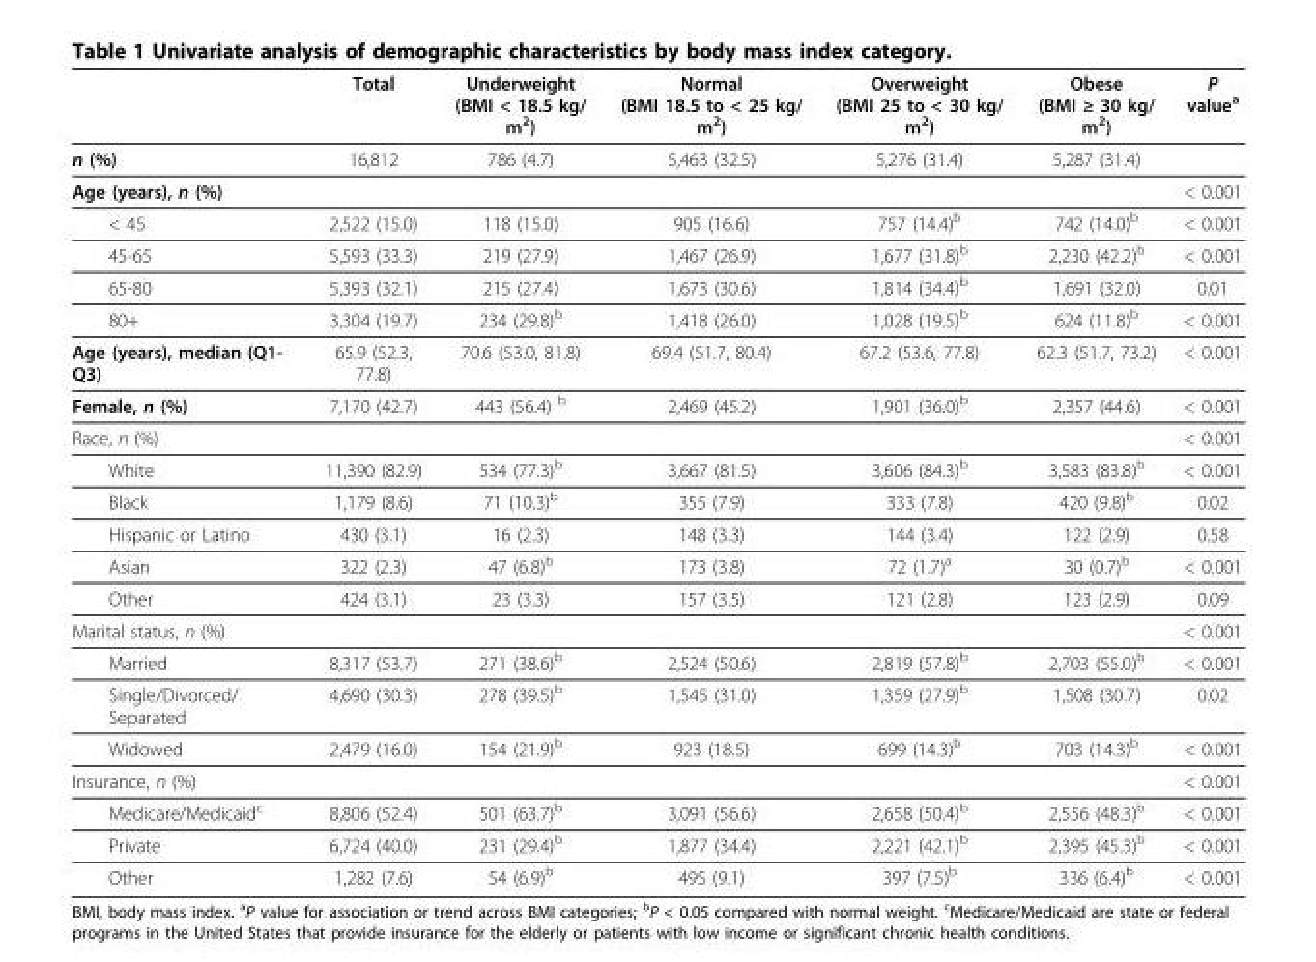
<table><thead><tr><td></td><td>Total</td><td>Underweight (BMI &lt; 18.5 kg/ m<sup>2</sup>)</td><td>Normal (BMI 18.5 to &lt; 25 kg/ m<sup>2</sup>)</td><td>Overweight (BMI 25 to &lt; 30 kg/ m<sup>2</sup>)</td><td>Obese (BMI ≥ 30 kg/ m<sup>2</sup>)</td><td>P value<sup>a</sup></td></tr></thead><tbody><tr><td>n (%)</td><td>16,812</td><td>786 (4.7)</td><td>5,463 (32.5)</td><td>5,276 (31.4)</td><td>5,287 (31.4)</td><td></td></tr><tr><td>Age (years), n (%)</td><td></td><td></td><td></td><td></td><td></td><td>&lt; 0.001</td></tr><tr><td>&lt; 45</td><td>2,522 (15.0)</td><td>118 (15.0)</td><td>905 (16.6)</td><td>757 (14.4)<sup>b</sup></td><td>742 (14.0)<sup>b</sup></td><td>&lt; 0.001</td></tr><tr><td>45-65</td><td>5,593 (33.3)</td><td>219 (27.9)</td><td>1,467 (26.9)</td><td>1,677 (31.8)<sup>b</sup></td><td>2,230 (42.2)<sup>b</sup></td><td>&lt; 0.001</td></tr><tr><td>65-80</td><td>5,393 (32.1)</td><td>215 (27.4)</td><td>1,673 (30.6)</td><td>1,814 (34.4)<sup>b</sup></td><td>1,691 (32.0)</td><td>0.01</td></tr><tr><td>80+</td><td>3,304 (19.7)</td><td>234 (29.8)<sup>b</sup></td><td>1,418 (26.0)</td><td>1,028 (19.5)<sup>b</sup></td><td>624 (11.8)<sup>b</sup></td><td>&lt; 0.001</td></tr><tr><td>Age (years), median (Q1- Q3)</td><td>65.9 (52.3, 77.8)</td><td>70.6 (53.0, 81.8)</td><td>69.4 (51.7, 80.4)</td><td>67.2 (53.6, 77.8)</td><td>62.3 (51.7, 73.2)</td><td>&lt; 0.001</td></tr><tr><td>Female, n (%)</td><td>7,170 (42.7)</td><td>443 (56.4) <sup>b</sup></td><td>2,469 (45.2)</td><td>1,901 (36.0)<sup>b</sup></td><td>2,357 (44.6)</td><td>&lt; 0.001</td></tr><tr><td>Race, n (%)</td><td></td><td></td><td></td><td></td><td></td><td>&lt; 0.001</td></tr><tr><td>White</td><td>11,390 (82.9)</td><td>534 (77.3)<sup>b</sup></td><td>3,667 (81.5)</td><td>3,606 (84.3)<sup>b</sup></td><td>3,583 (83.8)<sup>b</sup></td><td>&lt; 0.001</td></tr><tr><td>Black</td><td>1,179 (8.6)</td><td>71 (10.3)<sup>b</sup></td><td>355 (7.9)</td><td>333 (7.8)</td><td>420 (9.8)<sup>b</sup></td><td>0.02</td></tr><tr><td>Hispanic or Latino</td><td>430 (3.1)</td><td>16 (2.3)</td><td>148 (3.3)</td><td>144 (3.4)</td><td>122 (2.9)</td><td>0.58</td></tr><tr><td>Asian</td><td>322 (2.3)</td><td>47 (6.8)<sup>b</sup></td><td>173 (3.8)</td><td>72 (1.7)<sup>a</sup></td><td>30 (0.7)<sup>b</sup></td><td>&lt; 0.001</td></tr><tr><td>Other</td><td>424 (3.1)</td><td>23 (3.3)</td><td>157 (3.5)</td><td>121 (2.8)</td><td>123 (2.9)</td><td>0.09</td></tr><tr><td>Marital status, n (%)</td><td></td><td></td><td></td><td></td><td></td><td>&lt; 0.001</td></tr><tr><td>Married</td><td>8,317 (53.7)</td><td>271 (38.6)<sup>b</sup></td><td>2,524 (50.6)</td><td>2,819 (57.8)<sup>b</sup></td><td>2,703 (55.0)<sup>b</sup></td><td>&lt; 0.001</td></tr><tr><td>Single/Divorced/ Separated</td><td>4,690 (30.3)</td><td>278 (39.5)<sup>b</sup></td><td>1,545 (31.0)</td><td>1,359 (27.9)<sup>b</sup></td><td>1,508 (30.7)</td><td>0.02</td></tr><tr><td>Widowed</td><td>2,479 (16.0)</td><td>154 (21.9)<sup>b</sup></td><td>923 (18.5)</td><td>699 (14.3)<sup>b</sup></td><td>703 (14.3)<sup>b</sup></td><td>&lt; 0.001</td></tr><tr><td>Insurance, n (%)</td><td></td><td></td><td></td><td></td><td></td><td>&lt; 0.001</td></tr><tr><td>Medicare/Medicaid<sup>c</sup></td><td>8,806 (52.4)</td><td>501 (63.7)<sup>b</sup></td><td>3,091 (56.6)</td><td>2,658 (50.4)<sup>b</sup></td><td>2,556 (48.3)<sup>b</sup></td><td>&lt; 0.001</td></tr><tr><td>Private</td><td>6,724 (40.0)</td><td>231 (29.4)<sup>b</sup></td><td>1,877 (34.4)</td><td>2,221 (42.1)<sup>b</sup></td><td>2,395 (45.3)<sup>b</sup></td><td>&lt; 0.001</td></tr><tr><td>Other</td><td>1,282 (7.6)</td><td>54 (6.9)<sup>b</sup></td><td>495 (9.1)</td><td>397 (7.5)<sup>b</sup></td><td>336 (6.4)<sup>b</sup></td><td>&lt; 0.001</td></tr></tbody></table>